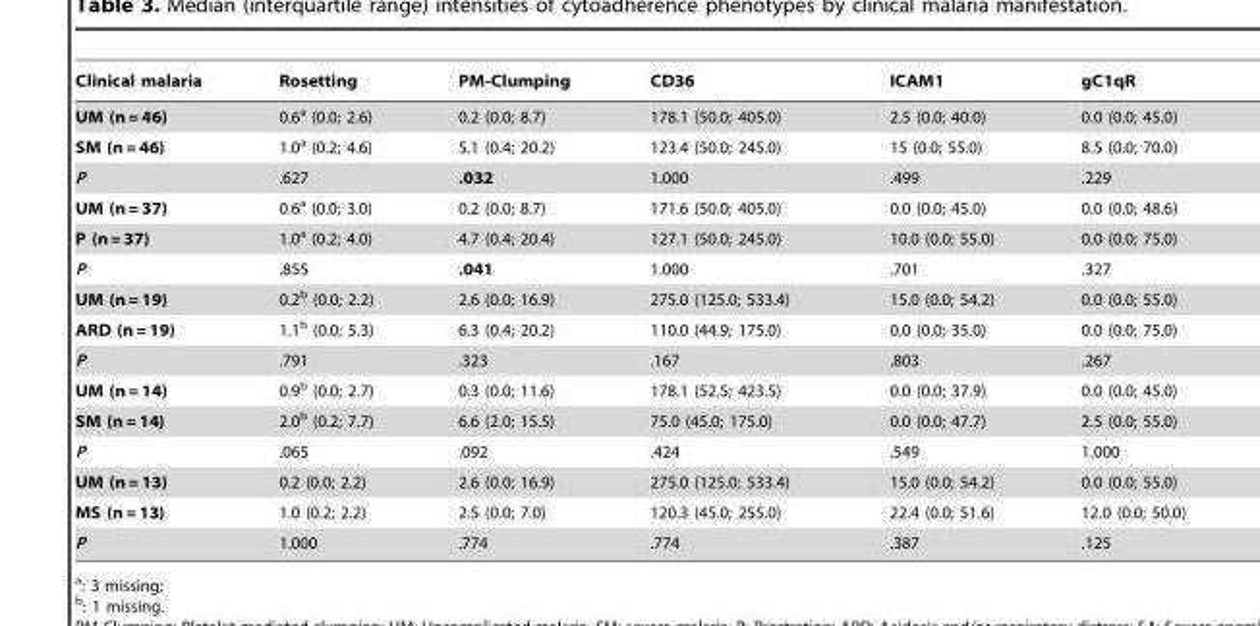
<table><thead><tr><td>Clinical malaria</td><td>Rosetting</td><td>PM-Clumping</td><td>CD36</td><td>ICAM1</td><td>gC1qR</td></tr></thead><tbody><tr><td>UM (n = 46)</td><td>0.6<sup>a</sup> (0.0; 2.6)</td><td>0.2 (0.0; 8.7)</td><td>178.1 (50.0; 405.0)</td><td>2.5 (0.0; 40.0)</td><td>0.0 (0.0; 45.0)</td></tr><tr><td>SM (n = 46)</td><td>1.0<sup>a</sup> (0.2; 4.6)</td><td>5.1 (0.4; 20.2)</td><td>123.4 (50.0; 245.0)</td><td>15 (0.0; 55.0)</td><td>8.5 (0.0; 70.0)</td></tr><tr><td>P</td><td>.627</td><td>.032</td><td>1.000</td><td>.499</td><td>.229</td></tr><tr><td>UM (n = 37)</td><td>0.6<sup>a</sup> (0.0; 3.0)</td><td>0.2 (0.0; 8.7)</td><td>171.6 (50.0; 405.0)</td><td>0.0 (0.0; 45.0)</td><td>0.0 (0.0; 48.6)</td></tr><tr><td>P (n = 37)</td><td>1.0<sup>a</sup> (0.2; 4.0)</td><td>4.7 (0.4; 20.4)</td><td>127.1 (50.0; 245.0)</td><td>10.0 (0.0; 55.0)</td><td>0.0 (0.0; 75.0)</td></tr><tr><td>P</td><td>.855</td><td>.041</td><td>1.000</td><td>.701</td><td>.327</td></tr><tr><td>UM (n = 19)</td><td>0.2<sup>b</sup> (0.0; 2.2)</td><td>2.6 (0.0; 16.9)</td><td>275.0 (125.0; 533.4)</td><td>15.0 (0.0; 54.2)</td><td>0.0 (0.0; 55.0)</td></tr><tr><td>ARD (n = 19)</td><td>1.1<sup>b</sup> (0.0; 5.3)</td><td>6.3 (0.4; 20.2)</td><td>110.0 (44.9; 175.0)</td><td>0.0 (0.0; 35.0)</td><td>0.0 (0.0; 75.0)</td></tr><tr><td>P</td><td>.791</td><td>.323</td><td>.167</td><td>.803</td><td>.267</td></tr><tr><td>UM (n = 14)</td><td>0.9<sup>b</sup> (0.0; 2.7)</td><td>0.3 (0.0; 11.6)</td><td>178.1 (52.5; 423.5)</td><td>0.0 (0.0; 37.9)</td><td>0.0 (0.0; 45.0)</td></tr><tr><td>SM (n = 14)</td><td>2.0<sup>b</sup> (0.2; 7.7)</td><td>6.6 (2.0; 15.5)</td><td>75.0 (45.0; 175.0)</td><td>0.0 (0.0; 47.7)</td><td>2.5 (0.0; 55.0)</td></tr><tr><td>P</td><td>.065</td><td>.092</td><td>.424</td><td>.549</td><td>1.000</td></tr><tr><td>UM (n = 13)</td><td>0.2 (0.0; 2.2)</td><td>2.6 (0.0; 16.9)</td><td>275.0 (125.0; 533.4)</td><td>15.0 (0.0; 54.2)</td><td>0.0 (0.0; 55.0)</td></tr><tr><td>MS (n = 13)</td><td>1.0 (0.2; 2.2)</td><td>2.5 (0.0; 7.0)</td><td>120.3 (45.0; 255.0)</td><td>22.4 (0.0; 51.6)</td><td>12.0 (0.0; 50.0)</td></tr><tr><td>P</td><td>1.000</td><td>.774</td><td>.774</td><td>.387</td><td>.125</td></tr></tbody></table>